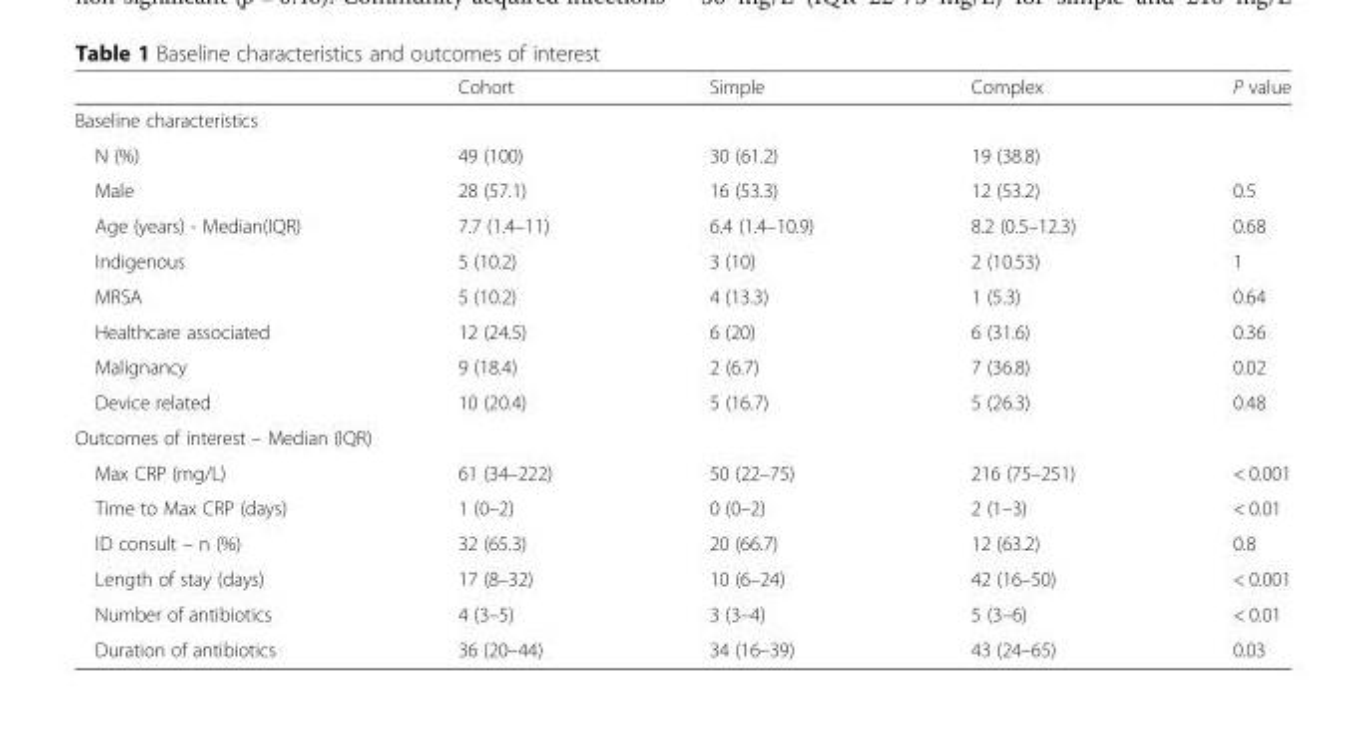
<table><thead><tr><td></td><td>Cohort</td><td>Simple</td><td>Complex</td><td>P value</td></tr></thead><tbody><tr><td colspan="5">Baseline characteristics</td></tr><tr><td>N (%)</td><td>49 (100)</td><td>30 (61.2)</td><td>19 (38.8)</td><td></td></tr><tr><td>Male</td><td>28 (57.1)</td><td>16 (53.3)</td><td>12 (53.2)</td><td>0.5</td></tr><tr><td>Age (years) - Median(IQR)</td><td>7.7 (1.4–11)</td><td>6.4 (1.4–10.9)</td><td>8.2 (0.5–12.3)</td><td>0.68</td></tr><tr><td>Indigenous</td><td>5 (10.2)</td><td>3 (10)</td><td>2 (10.53)</td><td>1</td></tr><tr><td>MRSA</td><td>5 (10.2)</td><td>4 (13.3)</td><td>1 (5.3)</td><td>0.64</td></tr><tr><td>Healthcare associated</td><td>12 (24.5)</td><td>6 (20)</td><td>6 (31.6)</td><td>0.36</td></tr><tr><td>Malignancy</td><td>9 (18.4)</td><td>2 (6.7)</td><td>7 (36.8)</td><td>0.02</td></tr><tr><td>Device related</td><td>10 (20.4)</td><td>5 (16.7)</td><td>5 (26.3)</td><td>0.48</td></tr><tr><td colspan="5">Outcomes of interest – Median (IQR)</td></tr><tr><td>Max CRP (mg/L)</td><td>61 (34–222)</td><td>50 (22–75)</td><td>216 (75–251)</td><td>&lt; 0.001</td></tr><tr><td>Time to Max CRP (days)</td><td>1 (0–2)</td><td>0 (0–2)</td><td>2 (1–3)</td><td>&lt; 0.01</td></tr><tr><td>ID consult – n (%)</td><td>32 (65.3)</td><td>20 (66.7)</td><td>12 (63.2)</td><td>0.8</td></tr><tr><td>Length of stay (days)</td><td>17 (8–32)</td><td>10 (6–24)</td><td>42 (16–50)</td><td>&lt; 0.001</td></tr><tr><td>Number of antibiotics</td><td>4 (3–5)</td><td>3 (3–4)</td><td>5 (3–6)</td><td>&lt; 0.01</td></tr><tr><td>Duration of antibiotics</td><td>36 (20–44)</td><td>34 (16–39)</td><td>43 (24–65)</td><td>0.03</td></tr></tbody></table>